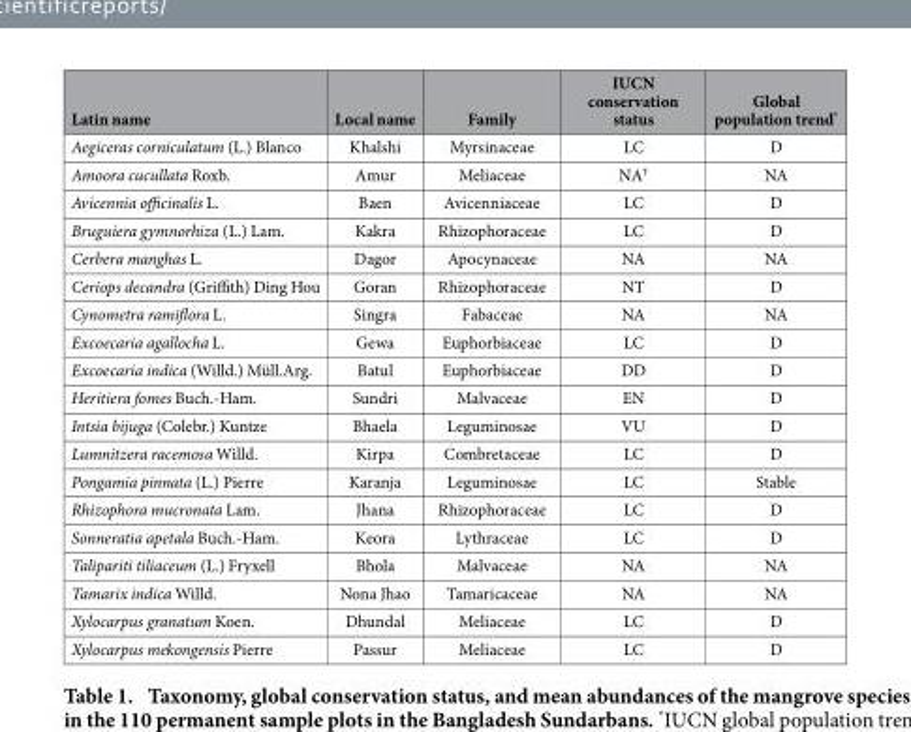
<table><thead><tr><td>Latin name</td><td>Local name</td><td>Family</td><td>IUCN conservation status</td><td>Global population trend*</td></tr></thead><tbody><tr><td>Aegiceras corniculatum (L.) Blanco</td><td>Khalshi</td><td>Myrsinaceae</td><td>LC</td><td>D</td></tr><tr><td>Amoora cucullata Roxb.</td><td>Amur</td><td>Meliaceae</td><td>NA†</td><td>NA</td></tr><tr><td>Avicennia officinalis L.</td><td>Baen</td><td>Avicenniaceae</td><td>LC</td><td>D</td></tr><tr><td>Bruguiera gymnorhiza (L.) Lam.</td><td>Kakra</td><td>Rhizophoraceae</td><td>LC</td><td>D</td></tr><tr><td>Cerbera manghas L.</td><td>Dagor</td><td>Apocynaceae</td><td>NA</td><td>NA</td></tr><tr><td>Ceriops decandra (Griffith) Ding Hou</td><td>Goran</td><td>Rhizophoraceae</td><td>NT</td><td>D</td></tr><tr><td>Cynometra ramiflora L.</td><td>Singra</td><td>Fabaceae</td><td>NA</td><td>NA</td></tr><tr><td>Excoecaria agallocha L.</td><td>Gewa</td><td>Euphorbiaceae</td><td>LC</td><td>D</td></tr><tr><td>Excoecaria indica (Willd.) Müll.Arg.</td><td>Batul</td><td>Euphorbiaceae</td><td>DD</td><td>D</td></tr><tr><td>Heritiera fomes Buch.-Ham.</td><td>Sundri</td><td>Malvaceae</td><td>EN</td><td>D</td></tr><tr><td>Intsia bijuga (Colebr.) Kuntze</td><td>Bhaela</td><td>Leguminosae</td><td>VU</td><td>D</td></tr><tr><td>Lumnitzera racemosa Willd.</td><td>Kirpa</td><td>Combretaceae</td><td>LC</td><td>D</td></tr><tr><td>Pongamia pinnata (L.) Pierre</td><td>Karanja</td><td>Leguminosae</td><td>LC</td><td>Stable</td></tr><tr><td>Rhizophora mucronata Lam.</td><td>Jhana</td><td>Rhizophoraceae</td><td>LC</td><td>D</td></tr><tr><td>Sonneratia apetala Buch.-Ham.</td><td>Keora</td><td>Lythraceae</td><td>LC</td><td>D</td></tr><tr><td>Talipariti tiliaceum (L.) Fryxell</td><td>Bhola</td><td>Malvaceae</td><td>NA</td><td>NA</td></tr><tr><td>Tamarix indica Willd.</td><td>Nona Jhao</td><td>Tamaricaceae</td><td>NA</td><td>NA</td></tr><tr><td>Xylocarpus granatum Koen.</td><td>Dhundal</td><td>Meliaceae</td><td>LC</td><td>D</td></tr><tr><td>Xylocarpus mekongensis Pierre</td><td>Passur</td><td>Meliaceae</td><td>LC</td><td>D</td></tr></tbody></table>